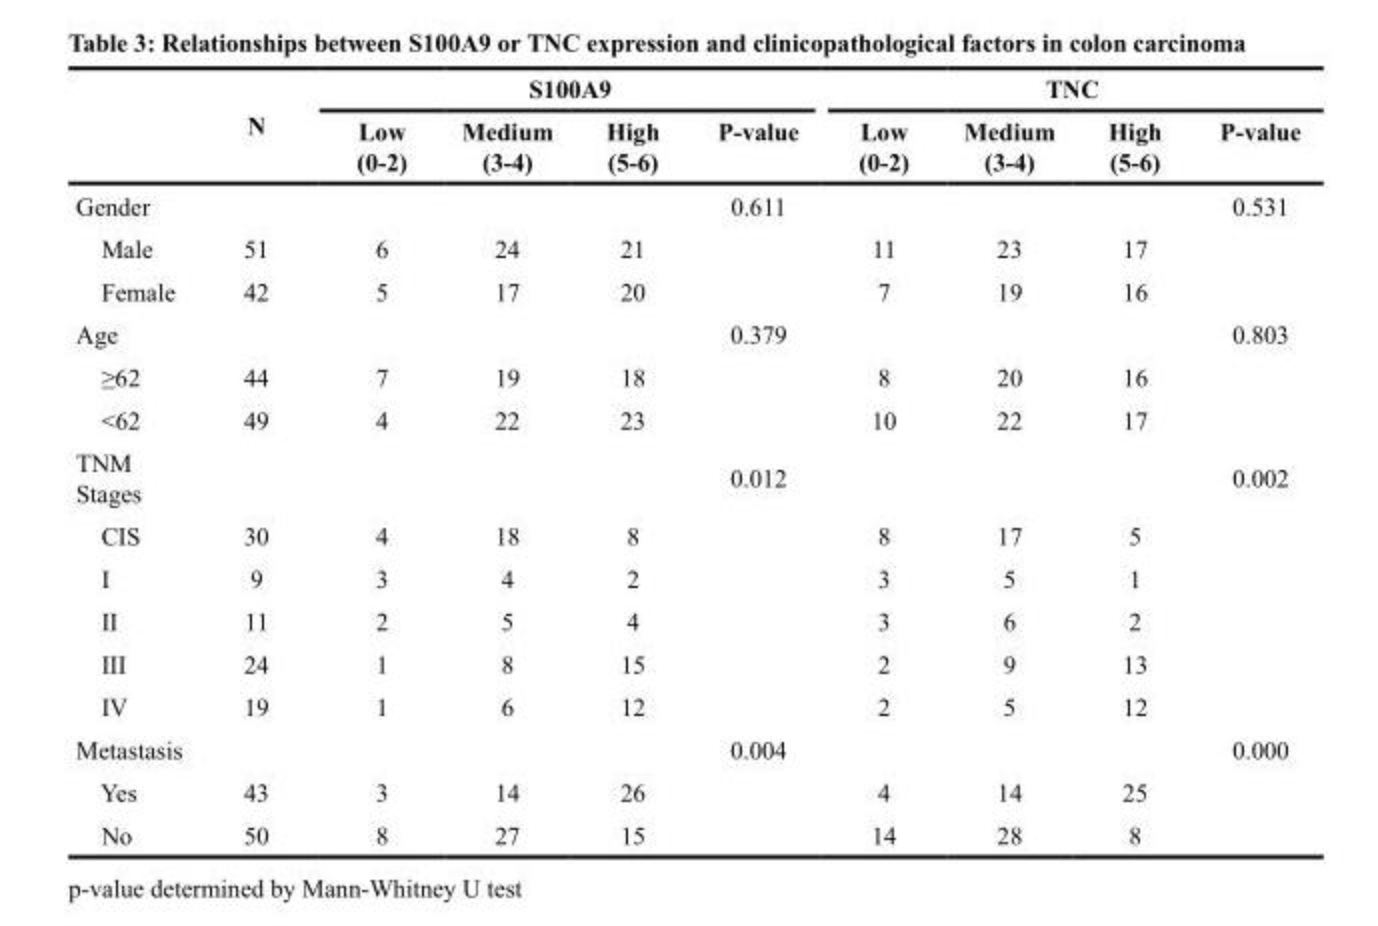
<table><thead><tr><td rowspan="2"></td><td rowspan="2">N</td><td colspan="4">S100A9</td><td colspan="4">TNC</td></tr><tr><td>Low (0-2)</td><td>Medium (3-4)</td><td>High (5-6)</td><td>P-value</td><td>Low (0-2)</td><td>Medium (3-4)</td><td>High (5-6)</td><td>P-value</td></tr></thead><tbody><tr><td>Gender</td><td></td><td></td><td></td><td></td><td>0.611</td><td></td><td></td><td></td><td>0.531</td></tr><tr><td>Male</td><td>51</td><td>6</td><td>24</td><td>21</td><td></td><td>11</td><td>23</td><td>17</td><td></td></tr><tr><td>Female</td><td>42</td><td>5</td><td>17</td><td>20</td><td></td><td>7</td><td>19</td><td>16</td><td></td></tr><tr><td>Age</td><td></td><td></td><td></td><td></td><td>0.379</td><td></td><td></td><td></td><td>0.803</td></tr><tr><td>≥62</td><td>44</td><td>7</td><td>19</td><td>18</td><td></td><td>8</td><td>20</td><td>16</td><td></td></tr><tr><td>&lt;62</td><td>49</td><td>4</td><td>22</td><td>23</td><td></td><td>10</td><td>22</td><td>17</td><td></td></tr><tr><td>TNM Stages</td><td></td><td></td><td></td><td></td><td>0.012</td><td></td><td></td><td></td><td>0.002</td></tr><tr><td>CIS</td><td>30</td><td>4</td><td>18</td><td>8</td><td></td><td>8</td><td>17</td><td>5</td><td></td></tr><tr><td>I</td><td>9</td><td>3</td><td>4</td><td>2</td><td></td><td>3</td><td>5</td><td>1</td><td></td></tr><tr><td>II</td><td>11</td><td>2</td><td>5</td><td>4</td><td></td><td>3</td><td>6</td><td>2</td><td></td></tr><tr><td>III</td><td>24</td><td>1</td><td>8</td><td>15</td><td></td><td>2</td><td>9</td><td>13</td><td></td></tr><tr><td>IV</td><td>19</td><td>1</td><td>6</td><td>12</td><td></td><td>2</td><td>5</td><td>12</td><td></td></tr><tr><td>Metastasis</td><td></td><td></td><td></td><td></td><td>0.004</td><td></td><td></td><td></td><td>0.000</td></tr><tr><td>Yes</td><td>43</td><td>3</td><td>14</td><td>26</td><td></td><td>4</td><td>14</td><td>25</td><td></td></tr><tr><td>No</td><td>50</td><td>8</td><td>27</td><td>15</td><td></td><td>14</td><td>28</td><td>8</td><td></td></tr></tbody></table>